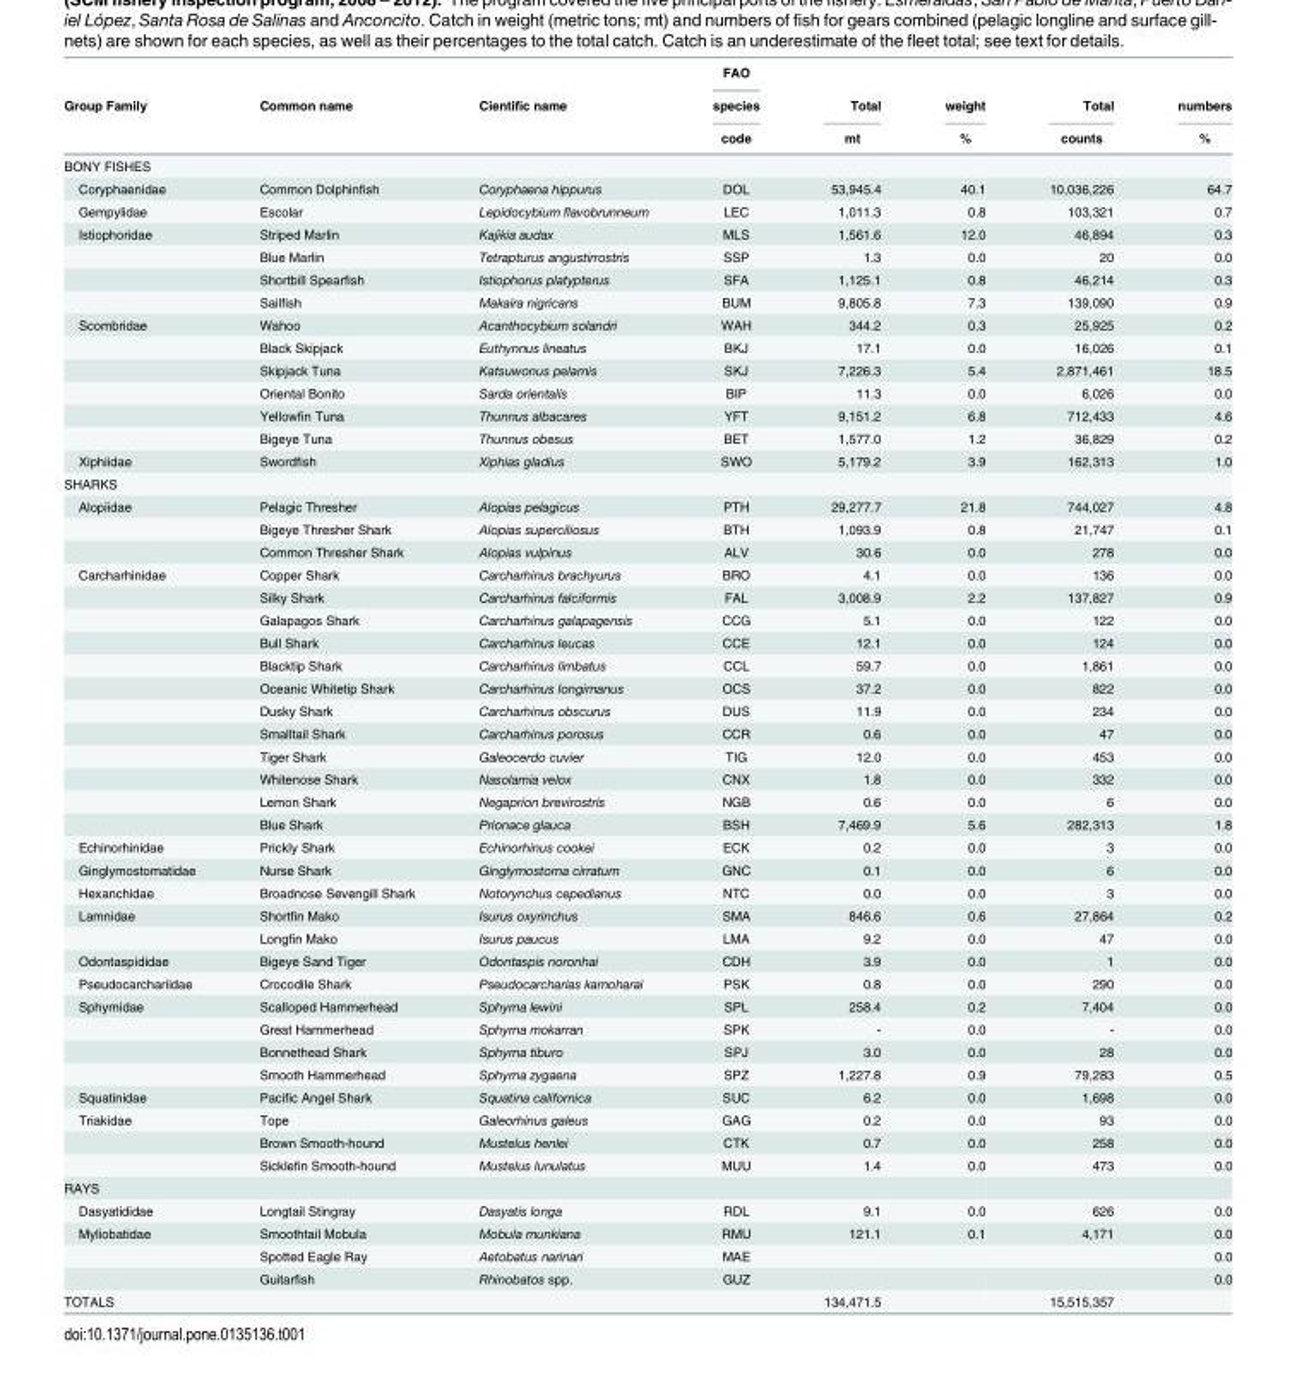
<table><thead><tr><td rowspan="3">Group Family</td><td rowspan="3">Common name</td><td rowspan="3">Cientific name</td><td rowspan="3">FAO species code</td><td rowspan="3">Total mt</td><td rowspan="3">weight %</td><td rowspan="3">Total counts</td><td rowspan="3">numbers %</td></tr><tr></tr><tr></tr></thead><tbody><tr><td colspan="8">BONY FISHES</td></tr><tr><td>Coryphaenidae</td><td>Common Dolphinfish</td><td>Coryphaena hippurus</td><td>DOL</td><td>53,945.4</td><td>40.1</td><td>10,036,226</td><td>64.7</td></tr><tr><td>Gempylidae</td><td>Escolar</td><td>Lepidocybium flavobrunneum</td><td>LEC</td><td>1,011.3</td><td>0.8</td><td>103,321</td><td>0.7</td></tr><tr><td rowspan="4">Istiophoridae</td><td>Striped Marlin</td><td>Kajikia audax</td><td>MLS</td><td>1,561.6</td><td>12.0</td><td>46,894</td><td>0.3</td></tr><tr><td>Blue Marlin</td><td>Tetrapturus angustirrostris</td><td>SSP</td><td>1.3</td><td>0.0</td><td>20</td><td>0.0</td></tr><tr><td>Shortbill Spearfish</td><td>Istiophorus platypterus</td><td>SFA</td><td>1,125.1</td><td>0.8</td><td>46,214</td><td>0.3</td></tr><tr><td>Sailfish</td><td>Makaira nigricans</td><td>BUM</td><td>9,805.8</td><td>7.3</td><td>139,090</td><td>0.9</td></tr><tr><td rowspan="6">Scombridae</td><td>Wahoo</td><td>Acanthocybium solandri</td><td>WAH</td><td>344.2</td><td>0.3</td><td>25,925</td><td>0.2</td></tr><tr><td>Black Skipjack</td><td>Euthynnus lineatus</td><td>BKJ</td><td>17.1</td><td>0.0</td><td>16,026</td><td>0.1</td></tr><tr><td>Skipjack Tuna</td><td>Katsuwonus pelamis</td><td>SKJ</td><td>7,226.3</td><td>5.4</td><td>2,871,461</td><td>18.5</td></tr><tr><td>Oriental Bonito</td><td>Sarda orientalis</td><td>BIP</td><td>11.3</td><td>0.0</td><td>6,026</td><td>0.0</td></tr><tr><td>Yellowfin Tuna</td><td>Thunnus albacares</td><td>YFT</td><td>9,151.2</td><td>6.8</td><td>712,433</td><td>4.6</td></tr><tr><td>Bigeye Tuna</td><td>Thunnus obesus</td><td>BET</td><td>1,577.0</td><td>1.2</td><td>36,829</td><td>0.2</td></tr><tr><td>Xiphiidae</td><td>Swordfish</td><td>Xiphias gladius</td><td>SWO</td><td>5,179.2</td><td>3.9</td><td>162,313</td><td>1.0</td></tr><tr><td colspan="8">SHARKS</td></tr><tr><td rowspan="3">Alopiidae</td><td>Pelagic Thresher</td><td>Alopias pelagicus</td><td>PTH</td><td>29,277.7</td><td>21.8</td><td>744,027</td><td>4.8</td></tr><tr><td>Bigeye Thresher Shark</td><td>Alopias superciliosus</td><td>BTH</td><td>1,093.9</td><td>0.8</td><td>21,747</td><td>0.1</td></tr><tr><td>Common Thresher Shark</td><td>Alopias vulpinus</td><td>ALV</td><td>30.6</td><td>0.0</td><td>278</td><td>0.0</td></tr><tr><td rowspan="12">Carcharhinidae</td><td>Copper Shark</td><td>Carcharhinus brachyurus</td><td>BRO</td><td>4.1</td><td>0.0</td><td>136</td><td>0.0</td></tr><tr><td>Silky Shark</td><td>Carcharhinus falciformis</td><td>FAL</td><td>3,008.9</td><td>2.2</td><td>137,827</td><td>0.9</td></tr><tr><td>Galapagos Shark</td><td>Carcharhinus galapagensis</td><td>CCG</td><td>5.1</td><td>0.0</td><td>122</td><td>0.0</td></tr><tr><td>Bull Shark</td><td>Carcharhinus leucas</td><td>CCE</td><td>12.1</td><td>0.0</td><td>124</td><td>0.0</td></tr><tr><td>Blacktip Shark</td><td>Carcharhinus limbatus</td><td>CCL</td><td>59.7</td><td>0.0</td><td>1,861</td><td>0.0</td></tr><tr><td>Oceanic Whitetip Shark</td><td>Carcharhinus longimanus</td><td>OCS</td><td>37.2</td><td>0.0</td><td>822</td><td>0.0</td></tr><tr><td>Dusky Shark</td><td>Carcharhinus obscurus</td><td>DUS</td><td>11.9</td><td>0.0</td><td>234</td><td>0.0</td></tr><tr><td>Smalltail Shark</td><td>Carcharhinus porosus</td><td>CCR</td><td>0.6</td><td>0.0</td><td>47</td><td>0.0</td></tr><tr><td>Tiger Shark</td><td>Galeocerdo cuvier</td><td>TIG</td><td>12.0</td><td>0.0</td><td>453</td><td>0.0</td></tr><tr><td>Whitenose Shark</td><td>Nasolamia velox</td><td>CNX</td><td>1.8</td><td>0.0</td><td>332</td><td>0.0</td></tr><tr><td>Lemon Shark</td><td>Negaprion brevirostris</td><td>NGB</td><td>0.6</td><td>0.0</td><td>6</td><td>0.0</td></tr><tr><td>Blue Shark</td><td>Prionace glauca</td><td>BSH</td><td>7,469.9</td><td>5.6</td><td>282,313</td><td>1.8</td></tr><tr><td>Echinorhinidae</td><td>Prickly Shark</td><td>Echinorhinus cookei</td><td>ECK</td><td>0.2</td><td>0.0</td><td>3</td><td>0.0</td></tr><tr><td>Ginglymostomatidae</td><td>Nurse Shark</td><td>Ginglymostoma cirratum</td><td>GNC</td><td>0.1</td><td>0.0</td><td>6</td><td>0.0</td></tr><tr><td>Hexanchidae</td><td>Broadnose Sevengill Shark</td><td>Notorynchus cepedianus</td><td>NTC</td><td>0.0</td><td>0.0</td><td>3</td><td>0.0</td></tr><tr><td rowspan="2">Lamnidae</td><td>Shortfin Mako</td><td>Isurus oxyrinchus</td><td>SMA</td><td>846.6</td><td>0.6</td><td>27,864</td><td>0.2</td></tr><tr><td>Longfin Mako</td><td>Isurus paucus</td><td>LMA</td><td>9.2</td><td>0.0</td><td>47</td><td>0.0</td></tr><tr><td>Odontaspididae</td><td>Bigeye Sand Tiger</td><td>Odontaspis noronhai</td><td>CDH</td><td>3.9</td><td>0.0</td><td>1</td><td>0.0</td></tr><tr><td>Pseudocarchariidae</td><td>Crocodile Shark</td><td>Pseudocarcharias kamoharai</td><td>PSK</td><td>0.8</td><td>0.0</td><td>290</td><td>0.0</td></tr><tr><td rowspan="4">Sphyrnidae</td><td>Scalloped Hammerhead</td><td>Sphyrna lewini</td><td>SPL</td><td>258.4</td><td>0.2</td><td>7,404</td><td>0.0</td></tr><tr><td>Great Hammerhead</td><td>Sphyrna mokarran</td><td>SPK</td><td>-</td><td>0.0</td><td>-</td><td>0.0</td></tr><tr><td>Bonnethead Shark</td><td>Sphyrna tiburo</td><td>SPJ</td><td>3.0</td><td>0.0</td><td>28</td><td>0.0</td></tr><tr><td>Smooth Hammerhead</td><td>Sphyrna zygaena</td><td>SPZ</td><td>1,227.8</td><td>0.9</td><td>79,283</td><td>0.5</td></tr><tr><td>Squatinidae</td><td>Pacific Angel Shark</td><td>Squatina californica</td><td>SUC</td><td>6.2</td><td>0.0</td><td>1,698</td><td>0.0</td></tr><tr><td rowspan="3">Triakidae</td><td>Tope</td><td>Galeorhinus galeus</td><td>GAG</td><td>0.2</td><td>0.0</td><td>93</td><td>0.0</td></tr><tr><td>Brown Smooth-hound</td><td>Mustelus henlei</td><td>CTK</td><td>0.7</td><td>0.0</td><td>258</td><td>0.0</td></tr><tr><td>Sicklefin Smooth-hound</td><td>Mustelus lunulatus</td><td>MUU</td><td>1.4</td><td>0.0</td><td>473</td><td>0.0</td></tr><tr><td colspan="8">RAYS</td></tr><tr><td>Dasyatididae</td><td>Longtail Stingray</td><td>Dasyatis longa</td><td>RDL</td><td>9.1</td><td>0.0</td><td>626</td><td>0.0</td></tr><tr><td rowspan="3">Myliobatidae</td><td>Smoothtail Mobula</td><td>Mobula munkiana</td><td>RMU</td><td>121.1</td><td>0.1</td><td>4,171</td><td>0.0</td></tr><tr><td>Spotted Eagle Ray</td><td>Aetobatus narinari</td><td>MAE</td><td></td><td></td><td></td><td>0.0</td></tr><tr><td>Guitarfish</td><td>Rhinobatos spp.</td><td>GUZ</td><td></td><td></td><td></td><td>0.0</td></tr><tr><td>TOTALS</td><td></td><td></td><td></td><td>134,471.5</td><td></td><td>15,515,357</td><td></td></tr></tbody></table>